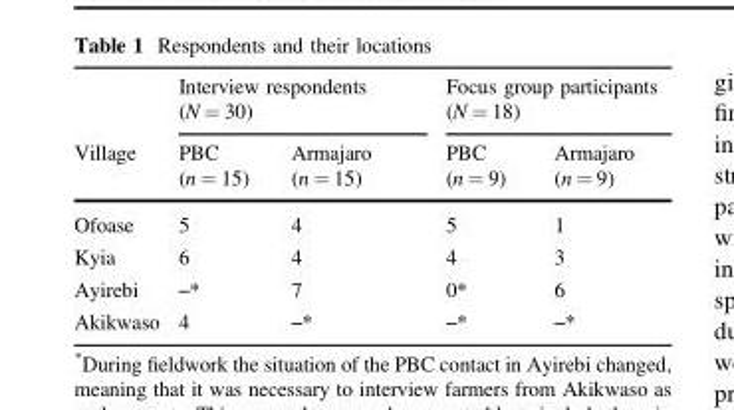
<table><thead><tr><td rowspan="2">Village</td><td colspan="2">Interview respondents (N = 30)</td><td colspan="2">Focus group participants (N = 18)</td></tr><tr><td>PBC (n = 15)</td><td>Armajaro (n = 15)</td><td>PBC (n = 9)</td><td>Armajaro (n = 9)</td></tr></thead><tbody><tr><td>Ofoase</td><td>5</td><td>4</td><td>5</td><td>1</td></tr><tr><td>Kyia</td><td>6</td><td>4</td><td>4</td><td>3</td></tr><tr><td>Ayirebi</td><td>–*</td><td>7</td><td>0*</td><td>6</td></tr><tr><td>Akikwaso</td><td>4</td><td>–*</td><td>–*</td><td>–*</td></tr></tbody></table>